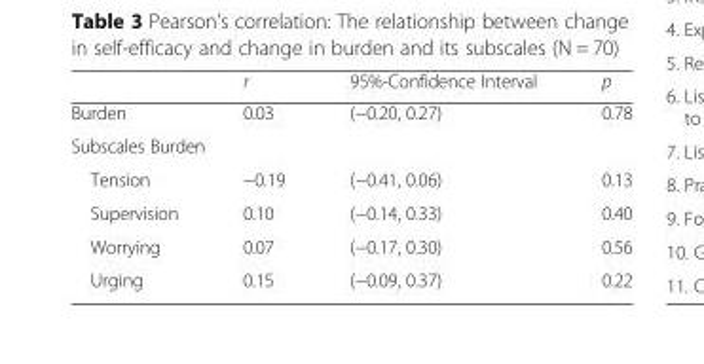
<table><thead><tr><td></td><td>r</td><td>95%-Confidence Interval</td><td>p</td></tr></thead><tbody><tr><td>Burden</td><td>0.03</td><td>(−0.20, 0.27)</td><td>0.78</td></tr><tr><td colspan="4">Subscales Burden</td></tr><tr><td>Tension</td><td>−0.19</td><td>(−0.41, 0.06)</td><td>0.13</td></tr><tr><td>Supervision</td><td>0.10</td><td>(−0.14, 0.33)</td><td>0.40</td></tr><tr><td>Worrying</td><td>0.07</td><td>(−0.17, 0.30)</td><td>0.56</td></tr><tr><td>Urging</td><td>0.15</td><td>(−0.09, 0.37)</td><td>0.22</td></tr></tbody></table>